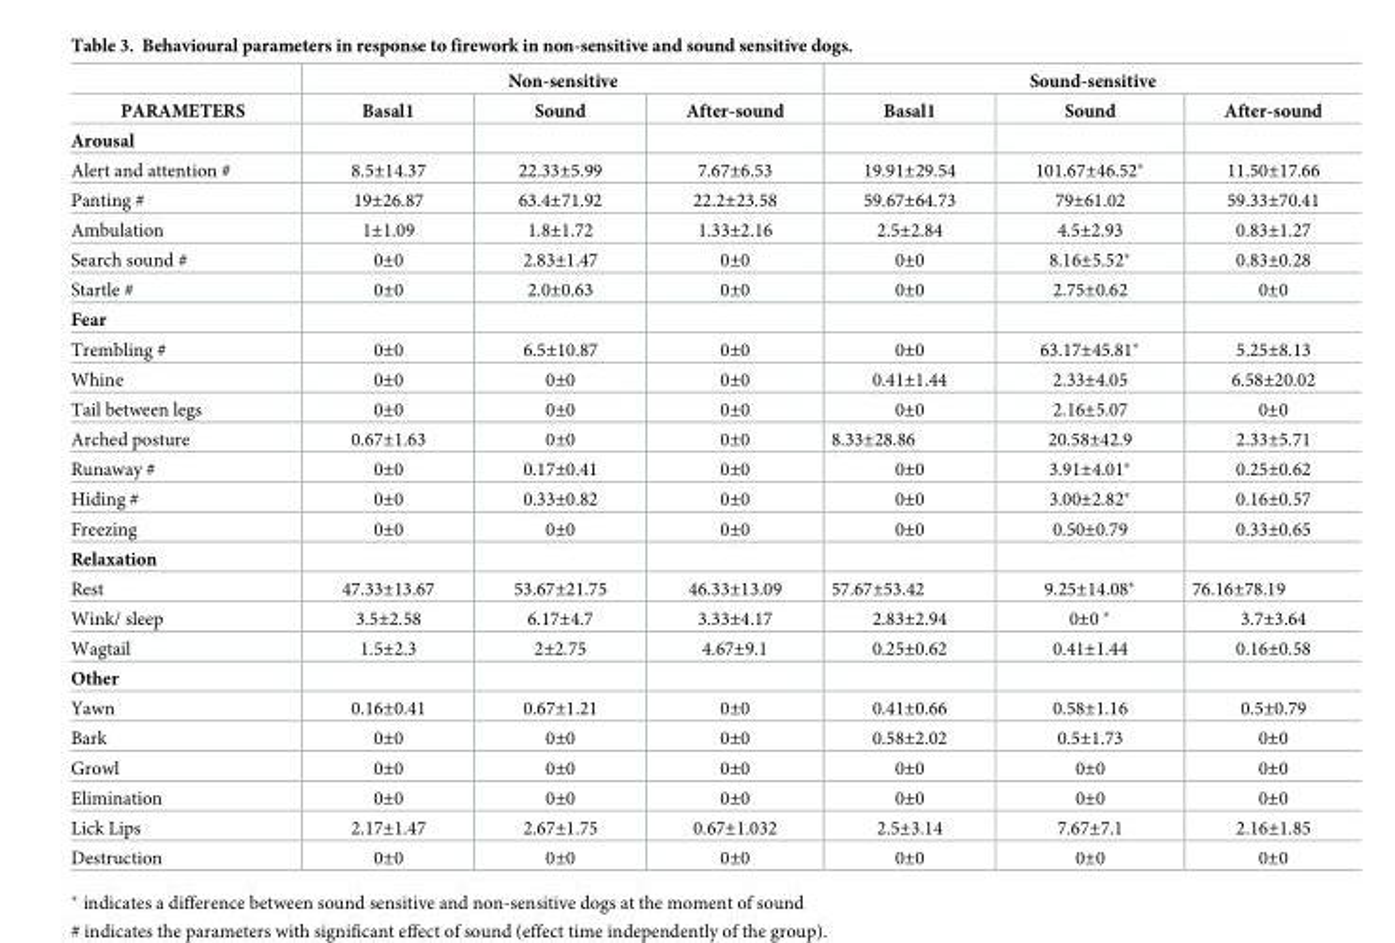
<table><thead><tr><td rowspan="2">PARAMETERS</td><td colspan="3">Non-sensitive</td><td colspan="3">Sound-sensitive</td></tr><tr><td>Basal1</td><td>Sound</td><td>After-sound</td><td>Basal1</td><td>Sound</td><td>After-sound</td></tr></thead><tbody><tr><td colspan="7">Arousal</td></tr><tr><td>Alert and attention #</td><td>8.5±14.37</td><td>22.33±5.99</td><td>7.67±6.53</td><td>19.91±29.54</td><td>101.67±46.52*</td><td>11.50±17.66</td></tr><tr><td>Panting #</td><td>19±26.87</td><td>63.4±71.92</td><td>22.2±23.58</td><td>59.67±64.73</td><td>79±61.02</td><td>59.33±70.41</td></tr><tr><td>Ambulation</td><td>1±1.09</td><td>1.8±1.72</td><td>1.33±2.16</td><td>2.5±2.84</td><td>4.5±2.93</td><td>0.83±1.27</td></tr><tr><td>Search sound #</td><td>0±0</td><td>2.83±1.47</td><td>0±0</td><td>0±0</td><td>8.16±5.52*</td><td>0.83±0.28</td></tr><tr><td>Startle #</td><td>0±0</td><td>2.0±0.63</td><td>0±0</td><td>0±0</td><td>2.75±0.62</td><td>0±0</td></tr><tr><td colspan="7">Fear</td></tr><tr><td>Trembling #</td><td>0±0</td><td>6.5±10.87</td><td>0±0</td><td>0±0</td><td>63.17±45.81*</td><td>5.25±8.13</td></tr><tr><td>Whine</td><td>0±0</td><td>0±0</td><td>0±0</td><td>0.41±1.44</td><td>2.33±4.05</td><td>6.58±20.02</td></tr><tr><td>Tail between legs</td><td>0±0</td><td>0±0</td><td>0±0</td><td>0±0</td><td>2.16±5.07</td><td>0±0</td></tr><tr><td>Arched posture</td><td>0.67±1.63</td><td>0±0</td><td>0±0</td><td>8.33±28.86</td><td>20.58±42.9</td><td>2.33±5.71</td></tr><tr><td>Runaway #</td><td>0±0</td><td>0.17±0.41</td><td>0±0</td><td>0±0</td><td>3.91±4.01*</td><td>0.25±0.62</td></tr><tr><td>Hiding #</td><td>0±0</td><td>0.33±0.82</td><td>0±0</td><td>0±0</td><td>3.00±2.82*</td><td>0.16±0.57</td></tr><tr><td>Freezing</td><td>0±0</td><td>0±0</td><td>0±0</td><td>0±0</td><td>0.50±0.79</td><td>0.33±0.65</td></tr><tr><td colspan="7">Relaxation</td></tr><tr><td>Rest</td><td>47.33±13.67</td><td>53.67±21.75</td><td>46.33±13.09</td><td>57.67±53.42</td><td>9.25±14.08*</td><td>76.16±78.19</td></tr><tr><td>Wink/ sleep</td><td>3.5±2.58</td><td>6.17±4.7</td><td>3.33±4.17</td><td>2.83±2.94</td><td>0±0 *</td><td>3.7±3.64</td></tr><tr><td>Wagtail</td><td>1.5±2.3</td><td>2±2.75</td><td>4.67±9.1</td><td>0.25±0.62</td><td>0.41±1.44</td><td>0.16±0.58</td></tr><tr><td colspan="7">Other</td></tr><tr><td>Yawn</td><td>0.16±0.41</td><td>0.67±1.21</td><td>0±0</td><td>0.41±0.66</td><td>0.58±1.16</td><td>0.5±0.79</td></tr><tr><td>Bark</td><td>0±0</td><td>0±0</td><td>0±0</td><td>0.58±2.02</td><td>0.5±1.73</td><td>0±0</td></tr><tr><td>Growl</td><td>0±0</td><td>0±0</td><td>0±0</td><td>0±0</td><td>0±0</td><td>0±0</td></tr><tr><td>Elimination</td><td>0±0</td><td>0±0</td><td>0±0</td><td>0±0</td><td>0±0</td><td>0±0</td></tr><tr><td>Lick Lips</td><td>2.17±1.47</td><td>2.67±1.75</td><td>0.67±1.032</td><td>2.5±3.14</td><td>7.67±7.1</td><td>2.16±1.85</td></tr><tr><td>Destruction</td><td>0±0</td><td>0±0</td><td>0±0</td><td>0±0</td><td>0±0</td><td>0±0</td></tr></tbody></table>